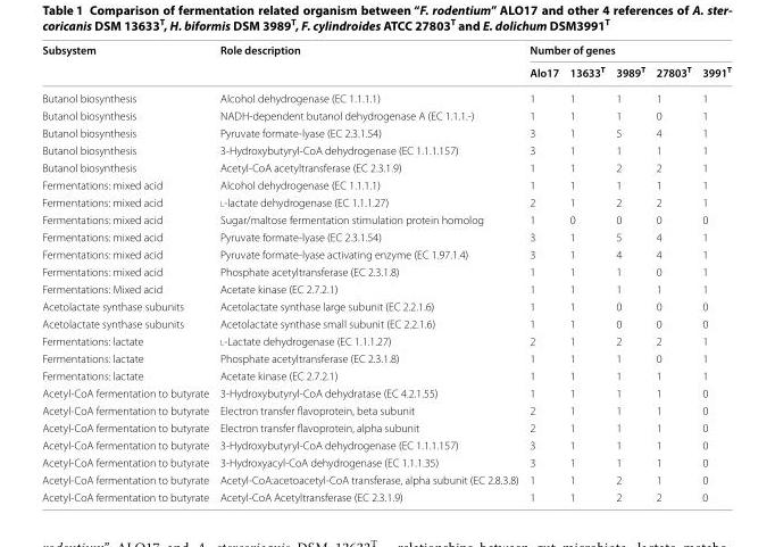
<table><thead><tr><td rowspan="2">Subsystem</td><td rowspan="2">Role description</td><td colspan="5">Number of genes</td></tr><tr><td>Alo17</td><td>13633<sup>T</sup></td><td>3989<sup>T</sup></td><td>27803<sup>T</sup></td><td>3991<sup>T</sup></td></tr></thead><tbody><tr><td>Butanol biosynthesis</td><td>Alcohol dehydrogenase (EC 1.1.1.1)</td><td>1</td><td>1</td><td>1</td><td>1</td><td>1</td></tr><tr><td>Butanol biosynthesis</td><td>NADH‑dependent butanol dehydrogenase A (EC 1.1.1.‑)</td><td>1</td><td>1</td><td>1</td><td>0</td><td>1</td></tr><tr><td>Butanol biosynthesis</td><td>Pyruvate formate‑lyase (EC 2.3.1.54)</td><td>3</td><td>1</td><td>5</td><td>4</td><td>1</td></tr><tr><td>Butanol biosynthesis</td><td>3‑Hydroxybutyryl‑CoA dehydrogenase (EC 1.1.1.157)</td><td>3</td><td>1</td><td>1</td><td>1</td><td>1</td></tr><tr><td>Butanol biosynthesis</td><td>Acetyl‑CoA acetyltransferase (EC 2.3.1.9)</td><td>1</td><td>1</td><td>2</td><td>2</td><td>1</td></tr><tr><td>Fermentations: mixed acid</td><td>Alcohol dehydrogenase (EC 1.1.1.1)</td><td>1</td><td>1</td><td>1</td><td>1</td><td>1</td></tr><tr><td>Fermentations: mixed acid</td><td>l‑lactate dehydrogenase (EC 1.1.1.27)</td><td>2</td><td>1</td><td>2</td><td>2</td><td>1</td></tr><tr><td>Fermentations: mixed acid</td><td>Sugar/maltose fermentation stimulation protein homolog</td><td>1</td><td>0</td><td>0</td><td>0</td><td>0</td></tr><tr><td>Fermentations: mixed acid</td><td>Pyruvate formate‑lyase (EC 2.3.1.54)</td><td>3</td><td>1</td><td>5</td><td>4</td><td>1</td></tr><tr><td>Fermentations: mixed acid</td><td>Pyruvate formate‑lyase activating enzyme (EC 1.97.1.4)</td><td>3</td><td>1</td><td>4</td><td>4</td><td>1</td></tr><tr><td>Fermentations: mixed acid</td><td>Phosphate acetyltransferase (EC 2.3.1.8)</td><td>1</td><td>1</td><td>1</td><td>0</td><td>1</td></tr><tr><td>Fermentations: Mixed acid</td><td>Acetate kinase (EC 2.7.2.1)</td><td>1</td><td>1</td><td>1</td><td>1</td><td>1</td></tr><tr><td>Acetolactate synthase subunits</td><td>Acetolactate synthase large subunit (EC 2.2.1.6)</td><td>1</td><td>1</td><td>0</td><td>0</td><td>0</td></tr><tr><td>Acetolactate synthase subunits</td><td>Acetolactate synthase small subunit (EC 2.2.1.6)</td><td>1</td><td>1</td><td>0</td><td>0</td><td>0</td></tr><tr><td>Fermentations: lactate</td><td>l‑Lactate dehydrogenase (EC 1.1.1.27)</td><td>2</td><td>1</td><td>2</td><td>2</td><td>1</td></tr><tr><td>Fermentations: lactate</td><td>Phosphate acetyltransferase (EC 2.3.1.8)</td><td>1</td><td>1</td><td>1</td><td>0</td><td>1</td></tr><tr><td>Fermentations: lactate</td><td>Acetate kinase (EC 2.7.2.1)</td><td>1</td><td>1</td><td>1</td><td>1</td><td>1</td></tr><tr><td>Acetyl‑CoA fermentation to butyrate</td><td>3‑Hydroxybutyryl‑CoA dehydratase (EC 4.2.1.55)</td><td>1</td><td>1</td><td>1</td><td>1</td><td>0</td></tr><tr><td>Acetyl‑CoA fermentation to butyrate</td><td>Electron transfer flavoprotein, beta subunit</td><td>2</td><td>1</td><td>1</td><td>1</td><td>0</td></tr><tr><td>Acetyl‑CoA fermentation to butyrate</td><td>Electron transfer flavoprotein, alpha subunit</td><td>2</td><td>1</td><td>1</td><td>1</td><td>0</td></tr><tr><td>Acetyl‑CoA fermentation to butyrate</td><td>3‑Hydroxybutyryl‑CoA dehydrogenase (EC 1.1.1.157)</td><td>3</td><td>1</td><td>1</td><td>1</td><td>0</td></tr><tr><td>Acetyl‑CoA fermentation to butyrate</td><td>3‑Hydroxyacyl‑CoA dehydrogenase (EC 1.1.1.35)</td><td>3</td><td>1</td><td>1</td><td>1</td><td>0</td></tr><tr><td>Acetyl‑CoA fermentation to butyrate</td><td>Acetyl‑CoA:acetoacetyl‑CoA transferase, alpha subunit (EC 2.8.3.8)</td><td>1</td><td>1</td><td>2</td><td>1</td><td>0</td></tr><tr><td>Acetyl‑CoA fermentation to butyrate</td><td>Acetyl‑CoA Acetyltransferase (EC 2.3.1.9)</td><td>1</td><td>1</td><td>2</td><td>2</td><td>0</td></tr></tbody></table>